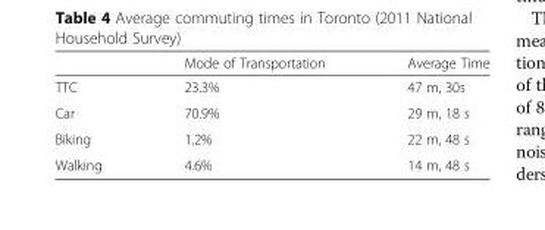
<table><thead><tr><td></td><td>Mode of Transportation</td><td>Average Time</td></tr></thead><tbody><tr><td>TTC</td><td>23.3%</td><td>47 m, 30s</td></tr><tr><td>Car</td><td>70.9%</td><td>29 m, 18 s</td></tr><tr><td>Biking</td><td>1.2%</td><td>22 m, 48 s</td></tr><tr><td>Walking</td><td>4.6%</td><td>14 m, 48 s</td></tr></tbody></table>